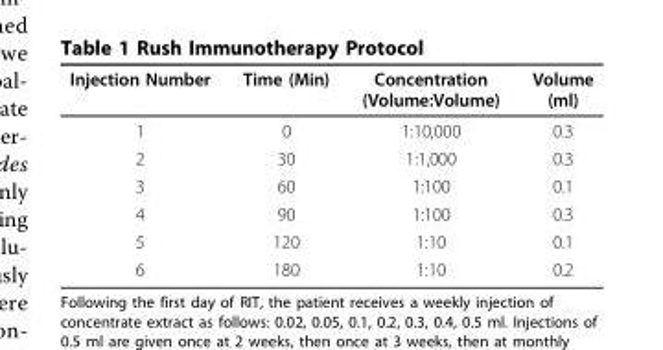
<table><thead><tr><td>Injection Number</td><td>Time (Min)</td><td>Concentration (Volume:Volume)</td><td>Volume (ml)</td></tr></thead><tbody><tr><td>1</td><td>0</td><td>1:10,000</td><td>0.3</td></tr><tr><td>2</td><td>30</td><td>1:1,000</td><td>0.3</td></tr><tr><td>3</td><td>60</td><td>1:100</td><td>0.1</td></tr><tr><td>4</td><td>90</td><td>1:100</td><td>0.3</td></tr><tr><td>5</td><td>120</td><td>1:10</td><td>0.1</td></tr><tr><td>6</td><td>180</td><td>1:10</td><td>0.2</td></tr></tbody></table>